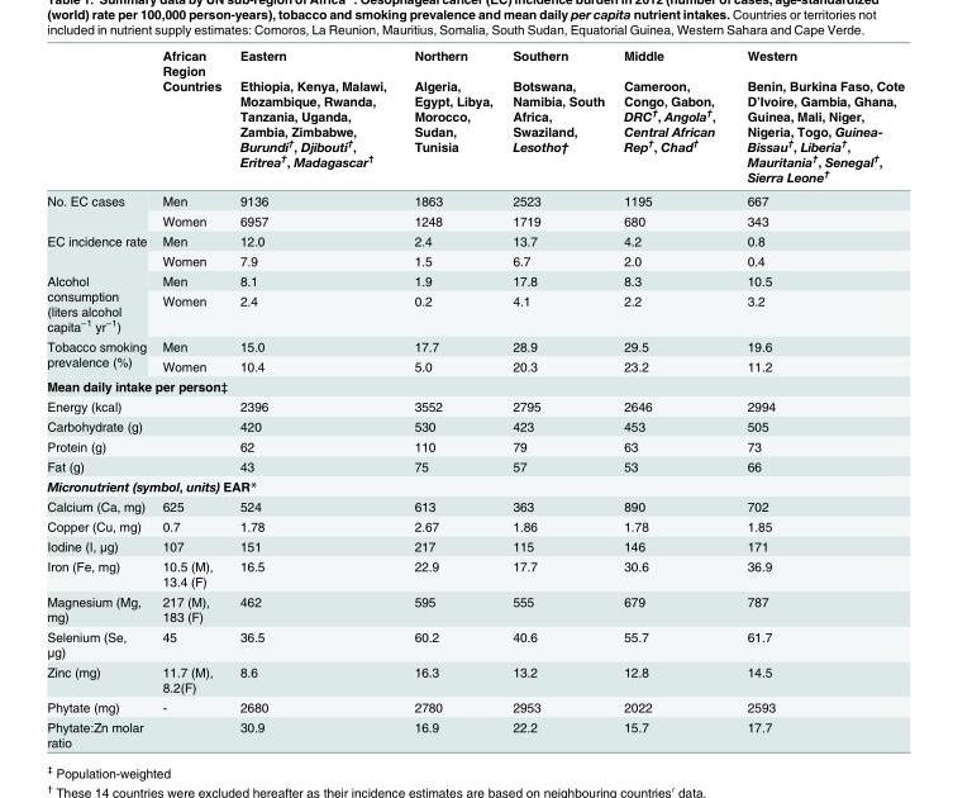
<table><thead><tr><td rowspan="2"></td><td rowspan="2">African Region Countries</td><td rowspan="2">Eastern Ethiopia, Kenya, Malawi, Mozambique, Rwanda, Tanzania, Uganda, Zambia, Zimbabwe, Burundi<sup>†</sup>, Djibouti<sup>†</sup>, Eritrea<sup>†</sup>, Madagascar<sup>†</sup></td><td rowspan="2">Northern Algeria, Egypt, Libya, Morocco, Sudan, Tunisia</td><td rowspan="2">Southern Botswana, Namibia, South Africa, Swaziland, Lesotho<sup>†</sup></td><td rowspan="2">Middle Cameroon, Congo, Gabon, DRC<sup>†</sup>, Angola<sup>†</sup>, Central African Rep<sup>†</sup>, Chad<sup>†</sup></td><td rowspan="2">Western Benin, Burkina Faso, Cote D’Ivoire, Gambia, Ghana, Guinea, Mali, Niger, Nigeria, Togo, Guinea- Bissau<sup>†</sup>, Liberia<sup>†</sup>, Mauritania<sup>†</sup>, Senegal<sup>†</sup>, Sierra Leone<sup>†</sup></td></tr><tr></tr></thead><tbody><tr><td rowspan="2">No. EC cases</td><td>Men</td><td>9136</td><td>1863</td><td>2523</td><td>1195</td><td>667</td></tr><tr><td>Women</td><td>6957</td><td>1248</td><td>1719</td><td>680</td><td>343</td></tr><tr><td rowspan="2">EC incidence rate</td><td>Men</td><td>12.0</td><td>2.4</td><td>13.7</td><td>4.2</td><td>0.8</td></tr><tr><td>Women</td><td>7.9</td><td>1.5</td><td>6.7</td><td>2.0</td><td>0.4</td></tr><tr><td rowspan="2">Alcohol consumption (liters alcohol capita<sup>−1</sup> yr<sup>−1</sup>)</td><td>Men</td><td>8.1</td><td>1.9</td><td>17.8</td><td>8.3</td><td>10.5</td></tr><tr><td>Women</td><td>2.4</td><td>0.2</td><td>4.1</td><td>2.2</td><td>3.2</td></tr><tr><td rowspan="2">Tobacco smoking prevalence (%)</td><td>Men</td><td>15.0</td><td>17.7</td><td>28.9</td><td>29.5</td><td>19.6</td></tr><tr><td>Women</td><td>10.4</td><td>5.0</td><td>20.3</td><td>23.2</td><td>11.2</td></tr><tr><td colspan="7">Mean daily intake per person‡</td></tr><tr><td>Energy (kcal)</td><td></td><td>2396</td><td>3552</td><td>2795</td><td>2646</td><td>2994</td></tr><tr><td>Carbohydrate (g)</td><td></td><td>420</td><td>530</td><td>423</td><td>453</td><td>505</td></tr><tr><td>Protein (g)</td><td></td><td>62</td><td>110</td><td>79</td><td>63</td><td>73</td></tr><tr><td>Fat (g)</td><td></td><td>43</td><td>75</td><td>57</td><td>53</td><td>66</td></tr><tr><td colspan="7">Micronutrient (symbol, units) EAR*</td></tr><tr><td>Calcium (Ca, mg)</td><td>625</td><td>524</td><td>613</td><td>363</td><td>890</td><td>702</td></tr><tr><td>Copper (Cu, mg)</td><td>0.7</td><td>1.78</td><td>2.67</td><td>1.86</td><td>1.78</td><td>1.85</td></tr><tr><td>Iodine (I, μg)</td><td>107</td><td>151</td><td>217</td><td>115</td><td>146</td><td>171</td></tr><tr><td>Iron (Fe, mg)</td><td>10.5 (M), 13.4 (F)</td><td>16.5</td><td>22.9</td><td>17.7</td><td>30.6</td><td>36.9</td></tr><tr><td>Magnesium (Mg, mg)</td><td>217 (M), 183 (F)</td><td>462</td><td>595</td><td>555</td><td>679</td><td>787</td></tr><tr><td>Selenium (Se, μg)</td><td>45</td><td>36.5</td><td>60.2</td><td>40.6</td><td>55.7</td><td>61.7</td></tr><tr><td>Zinc (mg)</td><td>11.7 (M), 8.2(F)</td><td>8.6</td><td>16.3</td><td>13.2</td><td>12.8</td><td>14.5</td></tr><tr><td>Phytate (mg)</td><td>-</td><td>2680</td><td>2780</td><td>2953</td><td>2022</td><td>2593</td></tr><tr><td>Phytate:Zn molar ratio</td><td></td><td>30.9</td><td>16.9</td><td>22.2</td><td>15.7</td><td>17.7</td></tr></tbody></table>